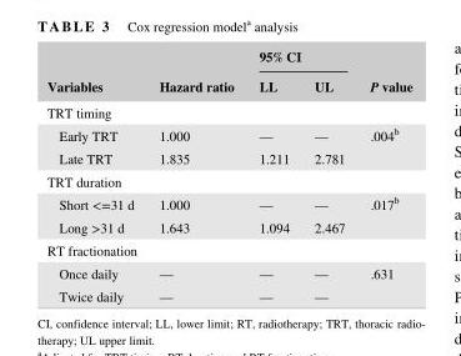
<table><thead><tr><td rowspan="2">Variables</td><td rowspan="2">Hazard ratio</td><td colspan="2">95% CI</td><td rowspan="2">P value</td></tr><tr><td>LL</td><td>UL</td></tr></thead><tbody><tr><td colspan="5">TRT timing</td></tr><tr><td>Early TRT</td><td>1.000</td><td>—</td><td>—</td><td rowspan="2">.004<sup>b</sup></td></tr><tr><td>Late TRT</td><td>1.835</td><td>1.211</td><td>2.781</td></tr><tr><td colspan="5">TRT duration</td></tr><tr><td>Short &lt;=31 d</td><td>1.000</td><td>—</td><td>—</td><td rowspan="2">.017<sup>b</sup></td></tr><tr><td>Long &gt;31 d</td><td>1.643</td><td>1.094</td><td>2.467</td></tr><tr><td colspan="5">RT fractionation</td></tr><tr><td>Once daily</td><td>—</td><td>—</td><td>—</td><td rowspan="2">.631</td></tr><tr><td>Twice daily</td><td>—</td><td>—</td><td>—</td></tr></tbody></table>